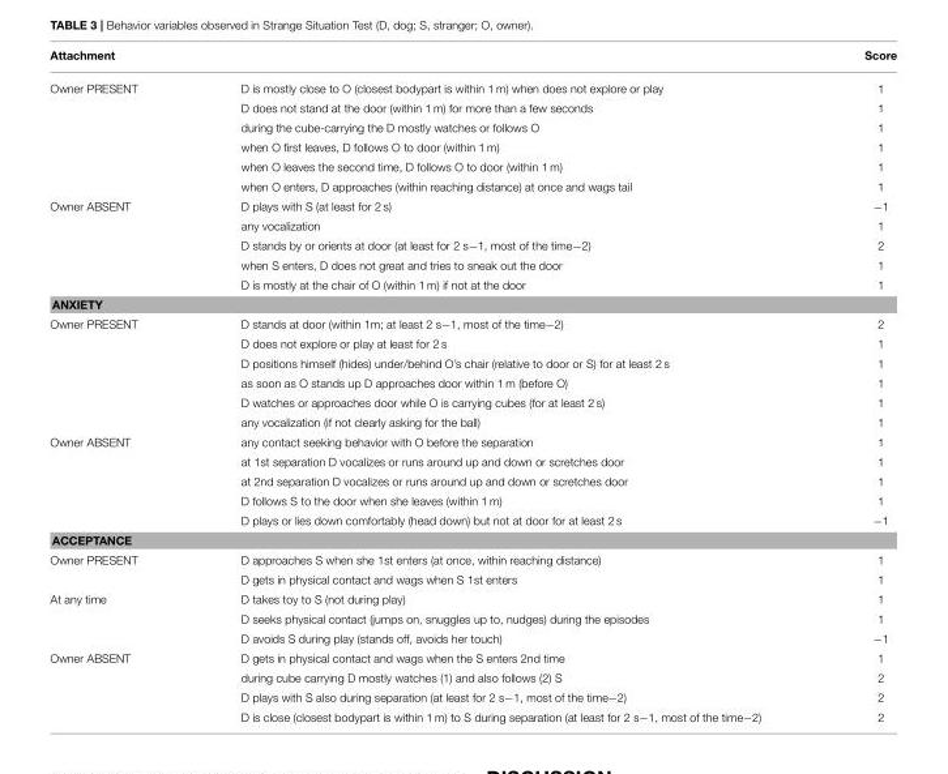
<table><thead><tr><td>Attachment</td><td></td><td>Score</td></tr></thead><tbody><tr><td rowspan="6">Owner PRESENT</td><td>D is mostly close to O (closest bodypart is within 1 m) when does not explore or play</td><td>1</td></tr><tr><td>D does not stand at the door (within 1 m) for more than a few seconds</td><td>1</td></tr><tr><td>during the cube-carrying the D mostly watches or follows O</td><td>1</td></tr><tr><td>when O first leaves, D follows O to door (within 1 m)</td><td>1</td></tr><tr><td>when O leaves the second time, D follows O to door (within 1 m)</td><td>1</td></tr><tr><td>when O enters, D approaches (within reaching distance) at once and wags tail</td><td>1</td></tr><tr><td rowspan="5">Owner ABSENT</td><td>D plays with S (at least for 2 s)</td><td>−1</td></tr><tr><td>any vocalization</td><td>1</td></tr><tr><td>D stands by or orients at door (at least for 2 s−1, most of the time−2)</td><td>2</td></tr><tr><td>when S enters, D does not great and tries to sneak out the door</td><td>1</td></tr><tr><td>D is mostly at the chair of O (within 1 m) if not at the door</td><td>1</td></tr><tr><td colspan="3">ANXIETY</td></tr><tr><td rowspan="6">Owner PRESENT</td><td>D stands at door (within 1m; at least 2 s−1, most of the time−2)</td><td>2</td></tr><tr><td>D does not explore or play at least for 2 s</td><td>1</td></tr><tr><td>D positions himself (hides) under/behind O’s chair (relative to door or S) for at least 2 s</td><td>1</td></tr><tr><td>as soon as O stands up D approaches door within 1 m (before O)</td><td>1</td></tr><tr><td>D watches or approaches door while O is carrying cubes (for at least 2 s)</td><td>1</td></tr><tr><td>any vocalization (if not clearly asking for the ball)</td><td>1</td></tr><tr><td rowspan="5">Owner ABSENT</td><td>any contact seeking behavior with O before the separation</td><td>1</td></tr><tr><td>at 1st separation D vocalizes or runs around up and down or scretches door</td><td>1</td></tr><tr><td>at 2nd separation D vocalizes or runs around up and down or scretches door</td><td>1</td></tr><tr><td>D follows S to the door when she leaves (within 1 m)</td><td>1</td></tr><tr><td>D plays or lies down comfortably (head down) but not at door for at least 2 s</td><td>−1</td></tr><tr><td colspan="3">ACCEPTANCE</td></tr><tr><td rowspan="2">Owner PRESENT</td><td>D approaches S when she 1st enters (at once, within reaching distance)</td><td>1</td></tr><tr><td>D gets in physical contact and wags when S 1st enters</td><td>1</td></tr><tr><td rowspan="3">At any time</td><td>D takes toy to S (not during play)</td><td>1</td></tr><tr><td>D seeks physical contact (jumps on, snuggles up to, nudges) during the episodes</td><td>1</td></tr><tr><td>D avoids S during play (stands off, avoids her touch)</td><td>−1</td></tr><tr><td rowspan="4">Owner ABSENT</td><td>D gets in physical contact and wags when the S enters 2nd time</td><td>1</td></tr><tr><td>during cube carrying D mostly watches (1) and also follows (2) S</td><td>2</td></tr><tr><td>D plays with S also during separation (at least for 2 s−1, most of the time−2)</td><td>2</td></tr><tr><td>D is close (closest bodypart is within 1 m) to S during separation (at least for 2 s−1, most of the time−2)</td><td>2</td></tr></tbody></table>